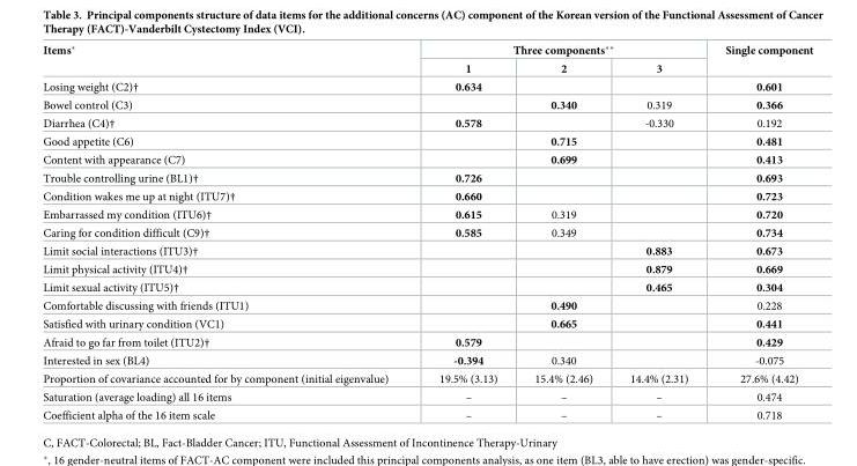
<table><thead><tr><td rowspan="2">Items*</td><td colspan="3">Three components**</td><td rowspan="2">Single component</td></tr><tr><td>1</td><td>2</td><td>3</td></tr></thead><tbody><tr><td>Losing weight (C2)†</td><td>0.634</td><td></td><td></td><td>0.601</td></tr><tr><td>Bowel control (C3)</td><td></td><td>0.340</td><td>0.319</td><td>0.366</td></tr><tr><td>Diarrhea (C4)†</td><td>0.578</td><td></td><td>-0.330</td><td>0.192</td></tr><tr><td>Good appetite (C6)</td><td></td><td>0.715</td><td></td><td>0.481</td></tr><tr><td>Content with appearance (C7)</td><td></td><td>0.699</td><td></td><td>0.413</td></tr><tr><td>Trouble controlling urine (BL1)†</td><td>0.726</td><td></td><td></td><td>0.693</td></tr><tr><td>Condition wakes me up at night (ITU7)†</td><td>0.660</td><td></td><td></td><td>0.723</td></tr><tr><td>Embarrassed my condition (ITU6)†</td><td>0.615</td><td>0.319</td><td></td><td>0.720</td></tr><tr><td>Caring for condition difficult (C9)†</td><td>0.585</td><td>0.349</td><td></td><td>0.734</td></tr><tr><td>Limit social interactions (ITU3)†</td><td></td><td></td><td>0.883</td><td>0.673</td></tr><tr><td>Limit physical activity (ITU4)†</td><td></td><td></td><td>0.879</td><td>0.669</td></tr><tr><td>Limit sexual activity (ITU5)†</td><td></td><td></td><td>0.465</td><td>0.304</td></tr><tr><td>Comfortable discussing with friends (ITU1)</td><td></td><td>0.490</td><td></td><td>0.228</td></tr><tr><td>Satisfied with urinary condition (VC1)</td><td></td><td>0.665</td><td></td><td>0.441</td></tr><tr><td>Afraid to go far from toilet (ITU2)†</td><td>0.579</td><td></td><td></td><td>0.429</td></tr><tr><td>Interested in sex (BL4)</td><td>-0.394</td><td>0.340</td><td></td><td>-0.075</td></tr><tr><td>Proportion of covariance accounted for by component (initial eigenvalue)</td><td>19.5% (3.13)</td><td>15.4% (2.46)</td><td>14.4% (2.31)</td><td>27.6% (4.42)</td></tr><tr><td>Saturation (average loading) all 16 items</td><td>–</td><td>–</td><td>–</td><td>0.474</td></tr><tr><td>Coefficient alpha of the 16 item scale</td><td>–</td><td>–</td><td>–</td><td>0.718</td></tr></tbody></table>